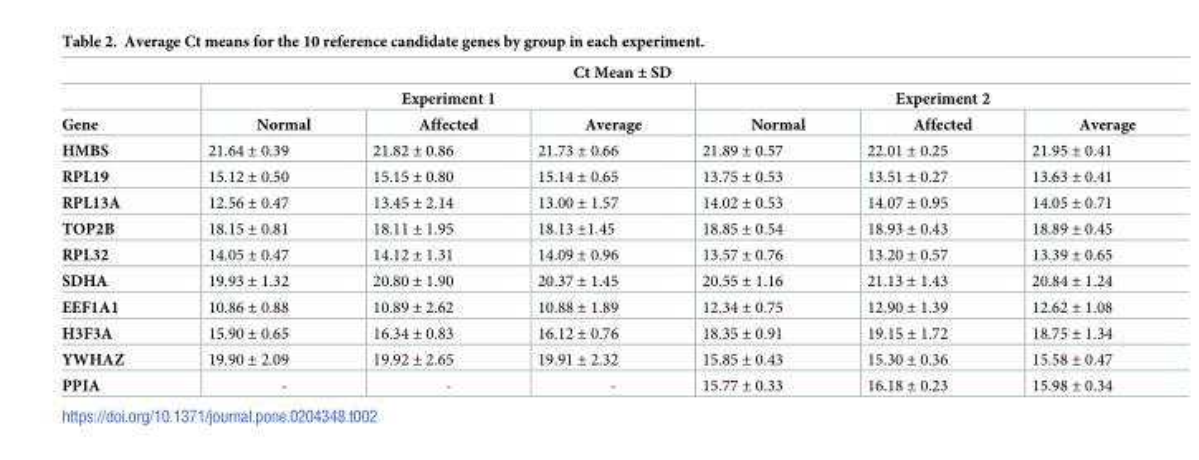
<table><thead><tr><td colspan="7">Ct Mean ± SD</td></tr><tr><td rowspan="2">Gene</td><td colspan="3">Experiment 1</td><td colspan="3">Experiment 2</td></tr><tr><td>Normal</td><td>Affected</td><td>Average</td><td>Normal</td><td>Affected</td><td>Average</td></tr></thead><tbody><tr><td>HMBS</td><td>21.64 ± 0.39</td><td>21.82 ± 0.86</td><td>21.73 ± 0.66</td><td>21.89 ± 0.57</td><td>22.01 ± 0.25</td><td>21.95 ± 0.41</td></tr><tr><td>RPL19</td><td>15.12 ± 0.50</td><td>15.15 ± 0.80</td><td>15.14 ± 0.65</td><td>13.75 ± 0.53</td><td>13.51 ± 0.27</td><td>13.63 ± 0.41</td></tr><tr><td>RPL13A</td><td>12.56 ± 0.47</td><td>13.45 ± 2.14</td><td>13.00 ± 1.57</td><td>14.02 ± 0.53</td><td>14.07 ± 0.95</td><td>14.05 ± 0.71</td></tr><tr><td>TOP2B</td><td>18.15 ± 0.81</td><td>18.11 ± 1.95</td><td>18.13 ±1.45</td><td>18.85 ± 0.54</td><td>18.93 ± 0.43</td><td>18.89 ± 0.45</td></tr><tr><td>RPL32</td><td>14.05 ± 0.47</td><td>14.12 ± 1.31</td><td>14.09 ± 0.96</td><td>13.57 ± 0.76</td><td>13.20 ± 0.57</td><td>13.39 ± 0.65</td></tr><tr><td>SDHA</td><td>19.93 ± 1.32</td><td>20.80 ± 1.90</td><td>20.37 ± 1.45</td><td>20.55 ± 1.16</td><td>21.13 ± 1.43</td><td>20.84 ± 1.24</td></tr><tr><td>EEF1A1</td><td>10.86 ± 0.88</td><td>10.89 ± 2.62</td><td>10.88 ± 1.89</td><td>12.34 ± 0.75</td><td>12.90 ± 1.39</td><td>12.62 ± 1.08</td></tr><tr><td>H3F3A</td><td>15.90 ± 0.65</td><td>16.34 ± 0.83</td><td>16.12 ± 0.76</td><td>18.35 ± 0.91</td><td>19.15 ± 1.72</td><td>18.75 ± 1.34</td></tr><tr><td>YWHAZ</td><td>19.90 ± 2.09</td><td>19.92 ± 2.65</td><td>19.91 ± 2.32</td><td>15.85 ± 0.43</td><td>15.30 ± 0.36</td><td>15.58 ± 0.47</td></tr><tr><td>PPIA</td><td>-</td><td>-</td><td>-</td><td>15.77 ± 0.33</td><td>16.18 ± 0.23</td><td>15.98 ± 0.34</td></tr></tbody></table>